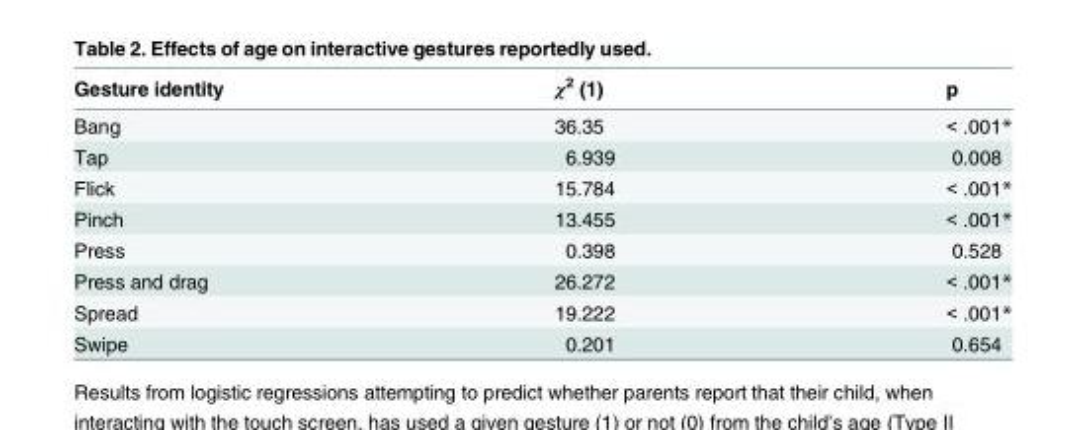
<table><thead><tr><td>Gesture identity</td><td>χ<sup>2</sup> (1)</td><td>p</td></tr></thead><tbody><tr><td>Bang</td><td>36.35</td><td>&lt; .001*</td></tr><tr><td>Tap</td><td>6.939</td><td>0.008</td></tr><tr><td>Flick</td><td>15.784</td><td>&lt; .001*</td></tr><tr><td>Pinch</td><td>13.455</td><td>&lt; .001*</td></tr><tr><td>Press</td><td>0.398</td><td>0.528</td></tr><tr><td>Press and drag</td><td>26.272</td><td>&lt; .001*</td></tr><tr><td>Spread</td><td>19.222</td><td>&lt; .001*</td></tr><tr><td>Swipe</td><td>0.201</td><td>0.654</td></tr></tbody></table>